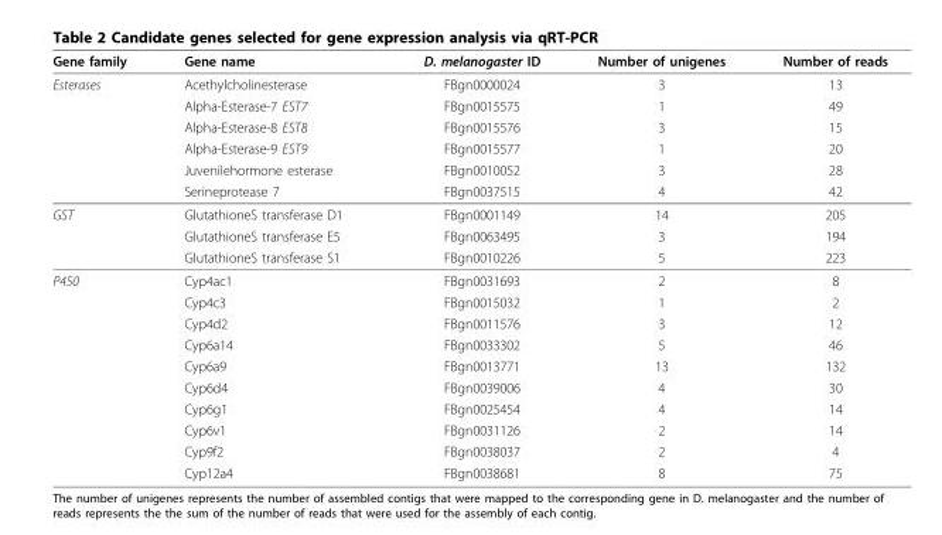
<table><thead><tr><td>Gene family</td><td>Gene name</td><td>D. melanogaster ID</td><td>Number of unigenes</td><td>Number of reads</td></tr></thead><tbody><tr><td rowspan="6">Esterases</td><td>Acethylcholinesterase</td><td>FBgn0000024</td><td>3</td><td>13</td></tr><tr><td>Alpha-Esterase-7 EST7</td><td>FBgn0015575</td><td>1</td><td>49</td></tr><tr><td>Alpha-Esterase-8 EST8</td><td>FBgn0015576</td><td>3</td><td>15</td></tr><tr><td>Alpha-Esterase-9 EST9</td><td>FBgn0015577</td><td>1</td><td>20</td></tr><tr><td>Juvenilehormone esterase</td><td>FBgn0010052</td><td>3</td><td>28</td></tr><tr><td>Serineprotease 7</td><td>FBgn0037515</td><td>4</td><td>42</td></tr><tr><td rowspan="3">GST</td><td>GlutathioneS transferase D1</td><td>FBgn0001149</td><td>14</td><td>205</td></tr><tr><td>GlutathioneS transferase E5</td><td>FBgn0063495</td><td>3</td><td>194</td></tr><tr><td>GlutathioneS transferase S1</td><td>FBgn0010226</td><td>5</td><td>223</td></tr><tr><td rowspan="10">P450</td><td>Cyp4ac1</td><td>FBgn0031693</td><td>2</td><td>8</td></tr><tr><td>Cyp4c3</td><td>FBgn0015032</td><td>1</td><td>2</td></tr><tr><td>Cyp4d2</td><td>FBgn0011576</td><td>3</td><td>12</td></tr><tr><td>Cyp6a14</td><td>FBgn0033302</td><td>5</td><td>46</td></tr><tr><td>Cyp6a9</td><td>FBgn0013771</td><td>13</td><td>132</td></tr><tr><td>Cyp6d4</td><td>FBgn0039006</td><td>4</td><td>30</td></tr><tr><td>Cyp6g1</td><td>FBgn0025454</td><td>4</td><td>14</td></tr><tr><td>Cyp6v1</td><td>FBgn0031126</td><td>2</td><td>14</td></tr><tr><td>Cyp9f2</td><td>FBgn0038037</td><td>2</td><td>4</td></tr><tr><td>Cyp12a4</td><td>FBgn0038681</td><td>8</td><td>75</td></tr></tbody></table>